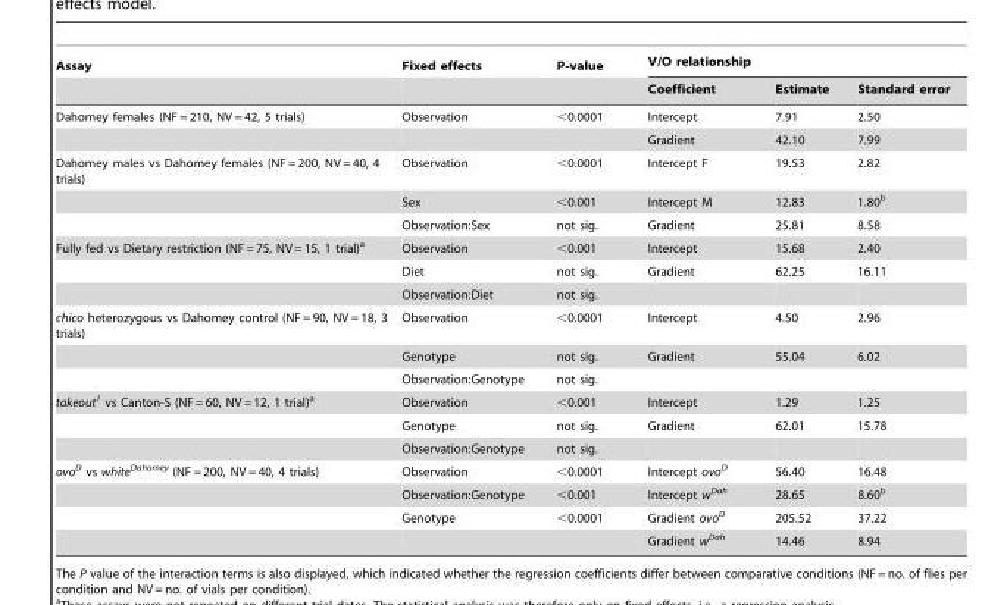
<table><thead><tr><td rowspan="2">Assay</td><td rowspan="2">Fixed effects</td><td rowspan="2">P-value</td><td colspan="3">V/O relationship</td></tr><tr><td>Coefficient</td><td>Estimate</td><td>Standard error</td></tr></thead><tbody><tr><td rowspan="2">Dahomey females (NF = 210, NV = 42, 5 trials)</td><td>Observation</td><td>&lt;0.0001</td><td>Intercept</td><td>7.91</td><td>2.50</td></tr><tr><td></td><td></td><td>Gradient</td><td>42.10</td><td>7.99</td></tr><tr><td rowspan="3">Dahomey males vs Dahomey females (NF = 200, NV = 40, 4 trials)</td><td>Observation</td><td>&lt;0.0001</td><td>Intercept F</td><td>19.53</td><td>2.82</td></tr><tr><td>Sex</td><td>&lt;0.001</td><td>Intercept M</td><td>12.83</td><td>1.80<sup>b</sup></td></tr><tr><td>Observation:Sex</td><td>not sig.</td><td>Gradient</td><td>25.81</td><td>8.58</td></tr><tr><td rowspan="3">Fully fed vs Dietary restriction (NF = 75, NV = 15, 1 trial)<sup>a</sup></td><td>Observation</td><td>&lt;0.001</td><td>Intercept</td><td>15.68</td><td>2.40</td></tr><tr><td>Diet</td><td>not sig.</td><td>Gradient</td><td>62.25</td><td>16.11</td></tr><tr><td>Observation:Diet</td><td>not sig.</td><td></td><td></td><td></td></tr><tr><td rowspan="3">chico heterozygous vs Dahomey control (NF = 90, NV = 18, 3 trials)</td><td>Observation</td><td>&lt;0.0001</td><td>Intercept</td><td>4.50</td><td>2.96</td></tr><tr><td>Genotype</td><td>not sig.</td><td>Gradient</td><td>55.04</td><td>6.02</td></tr><tr><td>Observation:Genotype</td><td>not sig.</td><td></td><td></td><td></td></tr><tr><td rowspan="3">takeout<sup>1</sup> vs Canton-S (NF = 60, NV = 12, 1 trial)<sup>a</sup></td><td>Observation</td><td>&lt;0.001</td><td>Intercept</td><td>1.29</td><td>1.25</td></tr><tr><td>Genotype</td><td>not sig.</td><td>Gradient</td><td>62.01</td><td>15.78</td></tr><tr><td>Observation:Genotype</td><td>not sig.</td><td></td><td></td><td></td></tr><tr><td rowspan="4">ovo<sup>D</sup> vs white<sup>Dahomey</sup> (NF = 200, NV = 40, 4 trials)</td><td>Observation</td><td>&lt;0.0001</td><td>Intercept ovo<sup>D</sup></td><td>56.40</td><td>16.48</td></tr><tr><td>Observation:Genotype</td><td>&lt;0.001</td><td>Intercept w<sup>Dah</sup></td><td>28.65</td><td>8.60<sup>b</sup></td></tr><tr><td>Genotype</td><td>&lt;0.0001</td><td>Gradient ovo<sup>D</sup></td><td>205.52</td><td>37.22</td></tr><tr><td></td><td></td><td>Gradient w<sup>Dah</sup></td><td>14.46</td><td>8.94</td></tr></tbody></table>